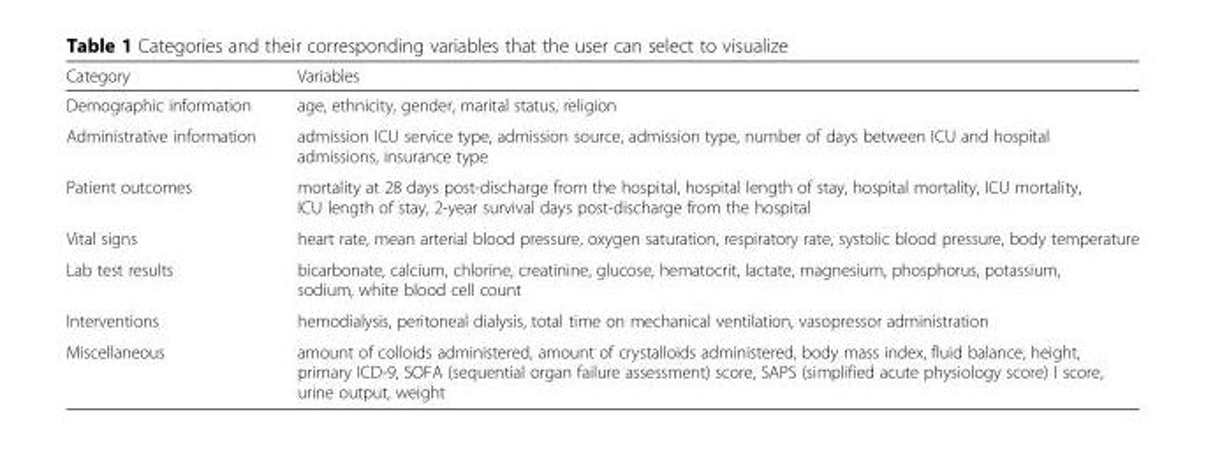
<table><thead><tr><td>Category</td><td>Variables</td></tr></thead><tbody><tr><td>Demographic information</td><td>age, ethnicity, gender, marital status, religion</td></tr><tr><td>Administrative information</td><td>admission ICU service type, admission source, admission type, number of days between ICU and hospital admissions, insurance type</td></tr><tr><td>Patient outcomes</td><td>mortality at 28 days post-discharge from the hospital, hospital length of stay, hospital mortality, ICU mortality, ICU length of stay, 2-year survival days post-discharge from the hospital</td></tr><tr><td>Vital signs</td><td>heart rate, mean arterial blood pressure, oxygen saturation, respiratory rate, systolic blood pressure, body temperature</td></tr><tr><td>Lab test results</td><td>bicarbonate, calcium, chlorine, creatinine, glucose, hematocrit, lactate, magnesium, phosphorus, potassium, sodium, white blood cell count</td></tr><tr><td>Interventions</td><td>hemodialysis, peritoneal dialysis, total time on mechanical ventilation, vasopressor administration</td></tr><tr><td>Miscellaneous</td><td>amount of colloids administered, amount of crystalloids administered, body mass index, fluid balance, height, primary ICD-9, SOFA (sequential organ failure assessment) score, SAPS (simplified acute physiology score) I score, urine output, weight</td></tr></tbody></table>